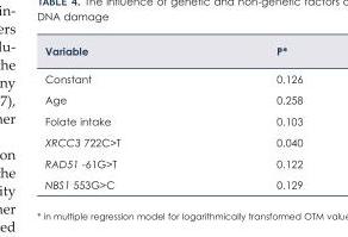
<table><thead><tr><td>Variable</td><td>P*</td></tr></thead><tbody><tr><td>Constant</td><td>0.126</td></tr><tr><td>Age</td><td>0.258</td></tr><tr><td>Folate intake</td><td>0.103</td></tr><tr><td>XRCC3 722C&gt;T</td><td>0.040</td></tr><tr><td>RAD51 -61G&gt;T</td><td>0.122</td></tr><tr><td>NBS1 553G&gt;C</td><td>0.129</td></tr></tbody></table>